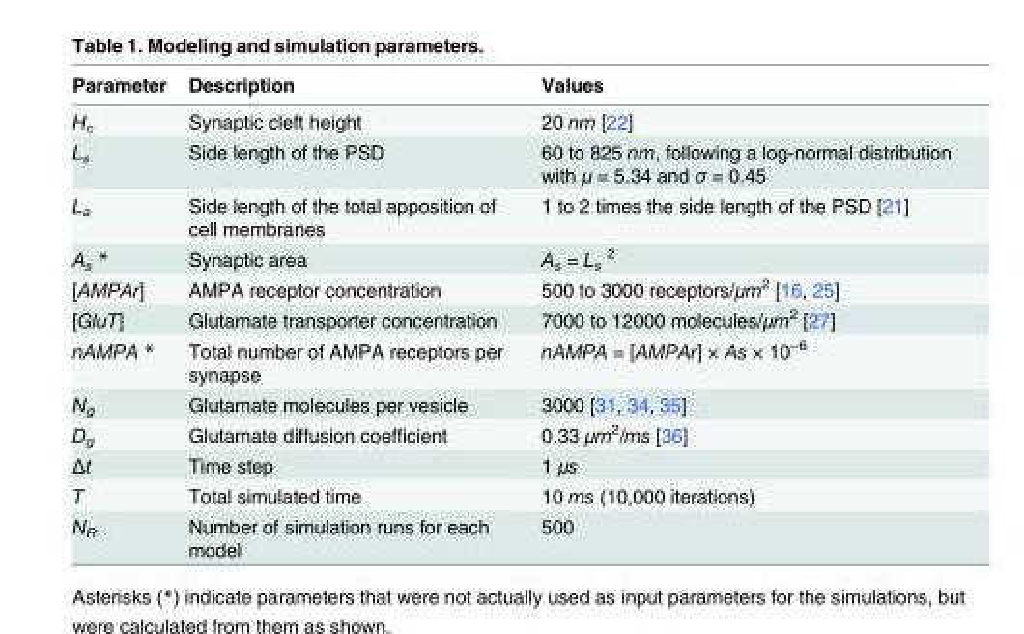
<table><thead><tr><td>Parameter</td><td>Description</td><td>Values</td></tr></thead><tbody><tr><td>H<sub>c</sub></td><td>Synaptic cleft height</td><td>20 nm [22]</td></tr><tr><td>L<sub>s</sub></td><td>Side length of the PSD</td><td>60 to 825 nm, following a log-normal distribution with μ = 5.34 and σ = 0.45</td></tr><tr><td>L<sub>a</sub></td><td>Side length of the total apposition of cell membranes</td><td>1 to 2 times the side length of the PSD [21]</td></tr><tr><td>A<sub>s</sub> *</td><td>Synaptic area</td><td>A<sub>s</sub> = L<sub>s</sub> <sup>2</sup></td></tr><tr><td>[AMPAr]</td><td>AMPA receptor concentration</td><td>500 to 3000 receptors/μm<sup>2</sup> [16, 25]</td></tr><tr><td>[GluT]</td><td>Glutamate transporter concentration</td><td>7000 to 12000 molecules/μm<sup>2</sup> [27]</td></tr><tr><td>nAMPA *</td><td>Total number of AMPA receptors per synapse</td><td>nAMPA = [AMPAr] × As × 10<sup>−6</sup></td></tr><tr><td>N<sub>g</sub></td><td>Glutamate molecules per vesicle</td><td>3000 [31, 34, 35]</td></tr><tr><td>D<sub>g</sub></td><td>Glutamate diffusion coefficient</td><td>0.33 μm<sup>2</sup>/ms [36]</td></tr><tr><td>Δt</td><td>Time step</td><td>1 μs</td></tr><tr><td>T</td><td>Total simulated time</td><td>10 ms (10,000 iterations)</td></tr><tr><td>N<sub>R</sub></td><td>Number of simulation runs for each model</td><td>500</td></tr></tbody></table>